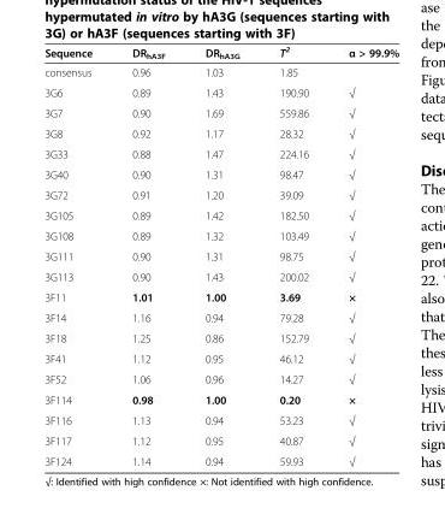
<table><thead><tr><td>Sequence</td><td>DR<sub>hA3F</sub></td><td>DR<sub>hA3G</sub></td><td>T<sup>2</sup></td><td>α &gt; 99.9%</td></tr></thead><tbody><tr><td>consensus</td><td>0.96</td><td>1.03</td><td>1.85</td><td></td></tr><tr><td>3G6</td><td>0.89</td><td>1.43</td><td>190.90</td><td>√</td></tr><tr><td>3G7</td><td>0.90</td><td>1.69</td><td>559.86</td><td>√</td></tr><tr><td>3G8</td><td>0.92</td><td>1.17</td><td>28.32</td><td>√</td></tr><tr><td>3G33</td><td>0.88</td><td>1.47</td><td>224.16</td><td>√</td></tr><tr><td>3G40</td><td>0.90</td><td>1.31</td><td>98.47</td><td>√</td></tr><tr><td>3G72</td><td>0.91</td><td>1.20</td><td>39.09</td><td>√</td></tr><tr><td>3G105</td><td>0.89</td><td>1.42</td><td>182.50</td><td>√</td></tr><tr><td>3G108</td><td>0.89</td><td>1.32</td><td>103.49</td><td>√</td></tr><tr><td>3G111</td><td>0.90</td><td>1.31</td><td>98.75</td><td>√</td></tr><tr><td>3G113</td><td>0.90</td><td>1.43</td><td>200.02</td><td>√</td></tr><tr><td>3F11</td><td>1.01</td><td>1.00</td><td>3.69</td><td>×</td></tr><tr><td>3F14</td><td>1.16</td><td>0.94</td><td>79.28</td><td>√</td></tr><tr><td>3F18</td><td>1.25</td><td>0.86</td><td>152.79</td><td>√</td></tr><tr><td>3F41</td><td>1.12</td><td>0.95</td><td>46.12</td><td>√</td></tr><tr><td>3F52</td><td>1.06</td><td>0.96</td><td>14.27</td><td>√</td></tr><tr><td>3F114</td><td>0.98</td><td>1.00</td><td>0.20</td><td>×</td></tr><tr><td>3F116</td><td>1.13</td><td>0.94</td><td>53.23</td><td>√</td></tr><tr><td>3F117</td><td>1.12</td><td>0.95</td><td>40.87</td><td>√</td></tr><tr><td>3F124</td><td>1.14</td><td>0.94</td><td>59.93</td><td>√</td></tr></tbody></table>